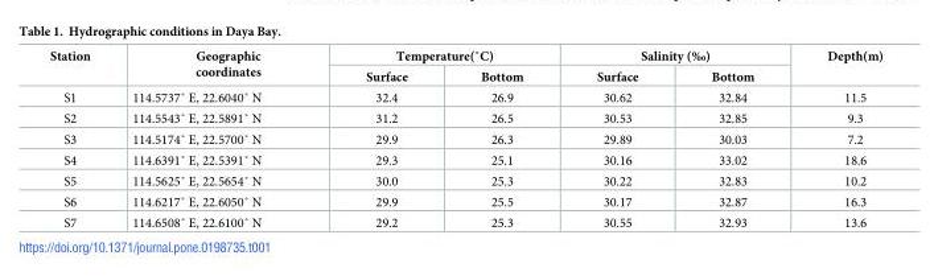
<table><thead><tr><td rowspan="2">Station</td><td rowspan="2">Geographic coordinates</td><td colspan="2">Temperature(˚C)</td><td colspan="2">Salinity (‰)</td><td rowspan="2">Depth(m)</td></tr><tr><td>Surface</td><td>Bottom</td><td>Surface</td><td>Bottom</td></tr></thead><tbody><tr><td>S1</td><td>114.5737˚ E, 22.6040˚ N</td><td>32.4</td><td>26.9</td><td>30.62</td><td>32.84</td><td>11.5</td></tr><tr><td>S2</td><td>114.5543˚ E, 22.5891˚ N</td><td>31.2</td><td>26.5</td><td>30.53</td><td>32.85</td><td>9.3</td></tr><tr><td>S3</td><td>114.5174˚ E, 22.5700˚ N</td><td>29.9</td><td>26.3</td><td>29.89</td><td>30.03</td><td>7.2</td></tr><tr><td>S4</td><td>114.6391˚ E, 22.5391˚ N</td><td>29.3</td><td>25.1</td><td>30.16</td><td>33.02</td><td>18.6</td></tr><tr><td>S5</td><td>114.5625˚ E, 22.5654˚ N</td><td>30.0</td><td>25.3</td><td>30.22</td><td>32.83</td><td>10.2</td></tr><tr><td>S6</td><td>114.6217˚ E, 22.6050˚ N</td><td>29.9</td><td>25.5</td><td>30.17</td><td>32.87</td><td>16.3</td></tr><tr><td>S7</td><td>114.6508˚ E, 22.6100˚ N</td><td>29.2</td><td>25.3</td><td>30.55</td><td>32.93</td><td>13.6</td></tr></tbody></table>